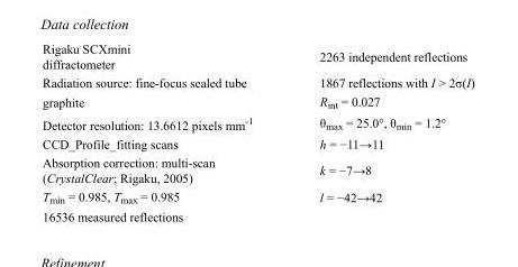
<table><tbody><tr><td>Rigaku SCXmini diffractometer</td><td>2263 independent reflections</td></tr><tr><td>Radiation source: fine-focus sealed tube</td><td>1867 reflections with I &gt; 2σ(I)</td></tr><tr><td>graphite</td><td>R<sub>int</sub> = 0.027</td></tr><tr><td>Detector resolution: 13.6612 pixels mm<sup>-1</sup></td><td>θ<sub>max</sub> = 25.0°, θ<sub>min</sub> = 1.2°</td></tr><tr><td>CCD_Profile_fitting scans</td><td>h = −11→11</td></tr><tr><td>Absorption correction: multi-scan (CrystalClear; Rigaku, 2005)</td><td>k = −7→8</td></tr><tr><td>T<sub>min</sub> = 0.985, T<sub>max</sub> = 0.985</td><td>l = −42→42</td></tr><tr><td>16536 measured reflections</td><td></td></tr></tbody></table>